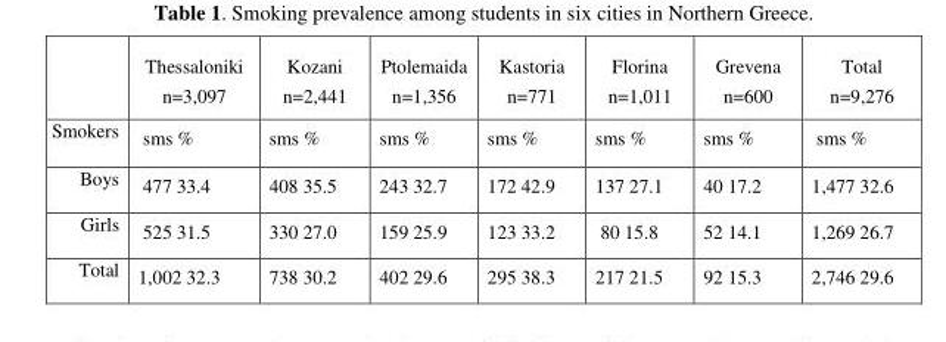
<table><thead><tr><td></td><td>Thessaloniki n=3,097</td><td>Kozani n=2,441</td><td>Ptolemaida n=1,356</td><td>Kastoria n=771</td><td>Florina n=1,011</td><td>Grevena n=600</td><td>Total n=9,276</td></tr></thead><tbody><tr><td>Smokers</td><td>sms %</td><td>sms %</td><td>sms %</td><td>sms %</td><td>sms %</td><td>sms %</td><td>sms %</td></tr><tr><td>Boys</td><td>477 33.4</td><td>408 35.5</td><td>243 32.7</td><td>172 42.9</td><td>137 27.1</td><td>40 17.2</td><td>1,477 32.6</td></tr><tr><td>Girls</td><td>525 31.5</td><td>330 27.0</td><td>159 25.9</td><td>123 33.2</td><td>80 15.8</td><td>52 14.1</td><td>1,269 26.7</td></tr><tr><td>Total</td><td>1,002 32.3</td><td>738 30.2</td><td>402 29.6</td><td>295 38.3</td><td>217 21.5</td><td>92 15.3</td><td>2,746 29.6</td></tr></tbody></table>